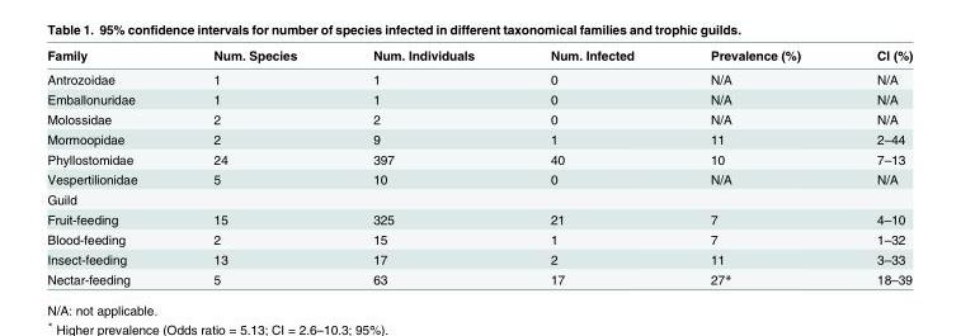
<table><thead><tr><td>Family</td><td>Num. Species</td><td>Num. Individuals</td><td>Num. Infected</td><td>Prevalence (%)</td><td>CI (%)</td></tr></thead><tbody><tr><td>Antrozoidae</td><td>1</td><td>1</td><td>0</td><td>N/A</td><td>N/A</td></tr><tr><td>Emballonuridae</td><td>1</td><td>1</td><td>0</td><td>N/A</td><td>N/A</td></tr><tr><td>Molossidae</td><td>2</td><td>2</td><td>0</td><td>N/A</td><td>N/A</td></tr><tr><td>Mormoopidae</td><td>2</td><td>9</td><td>1</td><td>11</td><td>2–44</td></tr><tr><td>Phyllostomidae</td><td>24</td><td>397</td><td>40</td><td>10</td><td>7–13</td></tr><tr><td>Vespertilionidae</td><td>5</td><td>10</td><td>0</td><td>N/A</td><td>N/A</td></tr><tr><td colspan="6">Guild</td></tr><tr><td>Fruit-feeding</td><td>15</td><td>325</td><td>21</td><td>7</td><td>4–10</td></tr><tr><td>Blood-feeding</td><td>2</td><td>15</td><td>1</td><td>7</td><td>1–32</td></tr><tr><td>Insect-feeding</td><td>13</td><td>17</td><td>2</td><td>11</td><td>3–33</td></tr><tr><td>Nectar-feeding</td><td>5</td><td>63</td><td>17</td><td>27*</td><td>18–39</td></tr></tbody></table>